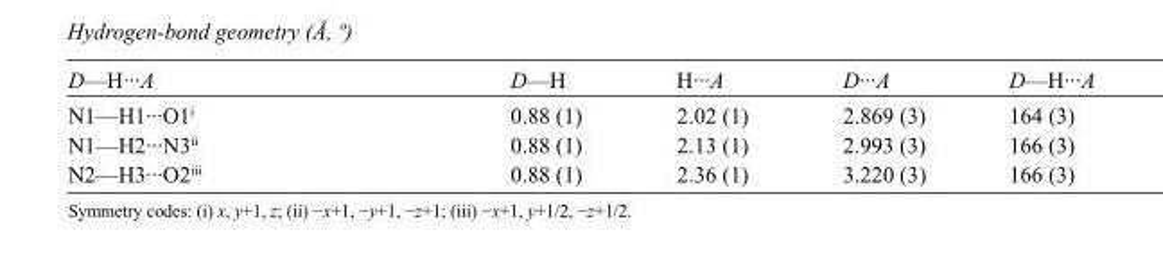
<table><tbody><tr><td>D—H···A</td><td>D—H</td><td>H···A</td><td>D···A</td><td>D—H···A</td></tr><tr><td>N1—H1···O1<sup>i</sup></td><td>0.88 (1)</td><td>2.02 (1)</td><td>2.869 (3)</td><td>164 (3)</td></tr><tr><td>N1—H2···N3<sup>ii</sup></td><td>0.88 (1)</td><td>2.13 (1)</td><td>2.993 (3)</td><td>166 (3)</td></tr><tr><td>N2—H3···O2<sup>iii</sup></td><td>0.88 (1)</td><td>2.36 (1)</td><td>3.220 (3)</td><td>166 (3)</td></tr></tbody></table>